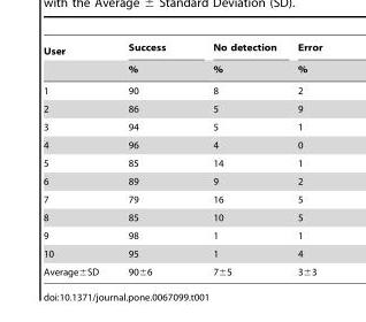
<table><thead><tr><td rowspan="2">User</td><td rowspan="2">Success %</td><td rowspan="2">No detection %</td><td rowspan="2">Error %</td></tr><tr></tr></thead><tbody><tr><td>1</td><td>90</td><td>8</td><td>2</td></tr><tr><td>2</td><td>86</td><td>5</td><td>9</td></tr><tr><td>3</td><td>94</td><td>5</td><td>1</td></tr><tr><td>4</td><td>96</td><td>4</td><td>0</td></tr><tr><td>5</td><td>85</td><td>14</td><td>1</td></tr><tr><td>6</td><td>89</td><td>9</td><td>2</td></tr><tr><td>7</td><td>79</td><td>16</td><td>5</td></tr><tr><td>8</td><td>85</td><td>10</td><td>5</td></tr><tr><td>9</td><td>98</td><td>1</td><td>1</td></tr><tr><td>10</td><td>95</td><td>1</td><td>4</td></tr><tr><td>Average±SD</td><td>90±6</td><td>7±5</td><td>3±3</td></tr></tbody></table>